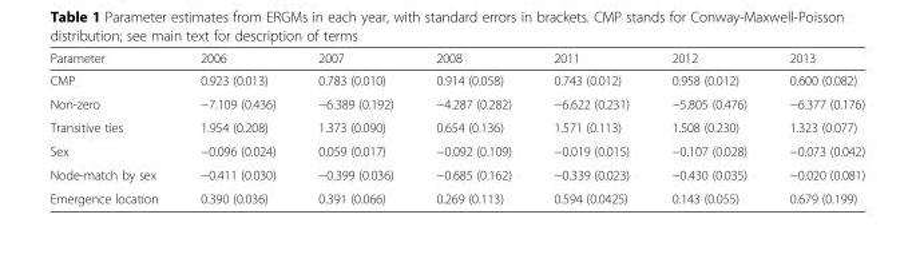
<table><thead><tr><td>Parameter</td><td>2006</td><td>2007</td><td>2008</td><td>2011</td><td>2012</td><td>2013</td></tr></thead><tbody><tr><td>CMP</td><td>0.923 (0.013)</td><td>0.783 (0.010)</td><td>0.914 (0.058)</td><td>0.743 (0.012)</td><td>0.958 (0.012)</td><td>0.600 (0.082)</td></tr><tr><td>Non-zero</td><td>−7.109 (0.436)</td><td>−6.389 (0.192)</td><td>−4.287 (0.282)</td><td>−6.622 (0.231)</td><td>−5.805 (0.476)</td><td>−6.377 (0.176)</td></tr><tr><td>Transitive ties</td><td>1.954 (0.208)</td><td>1.373 (0.090)</td><td>0.654 (0.136)</td><td>1.571 (0.113)</td><td>1.508 (0.230)</td><td>1.323 (0.077)</td></tr><tr><td>Sex</td><td>−0.096 (0.024)</td><td>0.059 (0.017)</td><td>−0.092 (0.109)</td><td>−0.019 (0.015)</td><td>−0.107 (0.028)</td><td>−0.073 (0.042)</td></tr><tr><td>Node-match by sex</td><td>−0.411 (0.030)</td><td>−0.399 (0.036)</td><td>−0.685 (0.162)</td><td>−0.339 (0.023)</td><td>−0.430 (0.035)</td><td>−0.020 (0.081)</td></tr><tr><td>Emergence location</td><td>0.390 (0.036)</td><td>0.391 (0.066)</td><td>0.269 (0.113)</td><td>0.594 (0.0425)</td><td>0.143 (0.055)</td><td>0.679 (0.199)</td></tr></tbody></table>